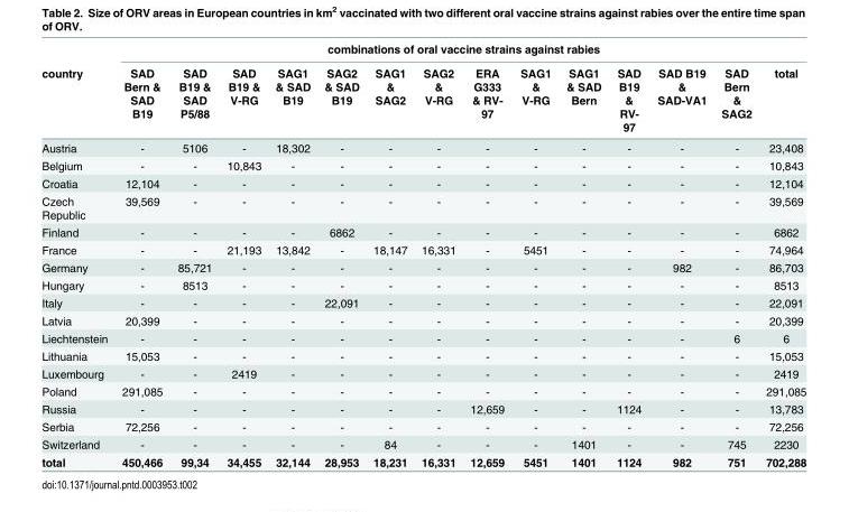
<table><thead><tr><td rowspan="2">country</td><td colspan="14">combinations of oral vaccine strains against rabies</td></tr><tr><td>SAD Bern &amp; SAD B19</td><td>SAD B19 &amp; SAD P5/88</td><td>SAD B19 &amp; V-RG</td><td>SAG1 &amp; SAD B19</td><td>SAG2 &amp; SAD B19</td><td>SAG1 &amp; SAG2</td><td>SAG2 &amp; V-RG</td><td>ERA G333 &amp; RV- 97</td><td>SAG1 &amp; V-RG</td><td>SAG1 &amp; SAD Bern</td><td>SAD B19 &amp; RV- 97</td><td>SAD B19 &amp; SAD-VA1</td><td>SAD Bern &amp; SAG2</td><td>total</td></tr></thead><tbody><tr><td>Austria</td><td>-</td><td>5106</td><td>-</td><td>18,302</td><td>-</td><td>-</td><td>-</td><td>-</td><td>-</td><td>-</td><td>-</td><td>-</td><td>-</td><td>23,408</td></tr><tr><td>Belgium</td><td>-</td><td>-</td><td>10,843</td><td>-</td><td>-</td><td>-</td><td>-</td><td>-</td><td>-</td><td>-</td><td>-</td><td>-</td><td>-</td><td>10,843</td></tr><tr><td>Croatia</td><td>12,104</td><td>-</td><td>-</td><td>-</td><td>-</td><td>-</td><td>-</td><td>-</td><td>-</td><td>-</td><td>-</td><td>-</td><td>-</td><td>12,104</td></tr><tr><td>Czech Republic</td><td>39,569</td><td>-</td><td>-</td><td>-</td><td>-</td><td>-</td><td>-</td><td>-</td><td>-</td><td>-</td><td>-</td><td>-</td><td>-</td><td>39,569</td></tr><tr><td>Finland</td><td>-</td><td>-</td><td>-</td><td>-</td><td>6862</td><td>-</td><td>-</td><td>-</td><td>-</td><td>-</td><td>-</td><td>-</td><td>-</td><td>6862</td></tr><tr><td>France</td><td>-</td><td>-</td><td>21,193</td><td>13,842</td><td>-</td><td>18,147</td><td>16,331</td><td>-</td><td>5451</td><td>-</td><td>-</td><td>-</td><td>-</td><td>74,964</td></tr><tr><td>Germany</td><td>-</td><td>85,721</td><td>-</td><td>-</td><td>-</td><td>-</td><td>-</td><td>-</td><td>-</td><td>-</td><td>-</td><td>982</td><td>-</td><td>86,703</td></tr><tr><td>Hungary</td><td>-</td><td>8513</td><td>-</td><td>-</td><td>-</td><td>-</td><td>-</td><td>-</td><td>-</td><td>-</td><td>-</td><td>-</td><td>-</td><td>8513</td></tr><tr><td>Italy</td><td>-</td><td>-</td><td>-</td><td>-</td><td>22,091</td><td>-</td><td>-</td><td>-</td><td>-</td><td>-</td><td>-</td><td>-</td><td>-</td><td>22,091</td></tr><tr><td>Latvia</td><td>20,399</td><td>-</td><td>-</td><td>-</td><td>-</td><td>-</td><td>-</td><td>-</td><td>-</td><td>-</td><td>-</td><td>-</td><td>-</td><td>20,399</td></tr><tr><td>Liechtenstein</td><td>-</td><td>-</td><td>-</td><td>-</td><td>-</td><td>-</td><td>-</td><td>-</td><td>-</td><td>-</td><td>-</td><td>-</td><td>6</td><td>6</td></tr><tr><td>Lithuania</td><td>15,053</td><td>-</td><td>-</td><td>-</td><td>-</td><td>-</td><td>-</td><td>-</td><td>-</td><td>-</td><td>-</td><td>-</td><td>-</td><td>15,053</td></tr><tr><td>Luxembourg</td><td>-</td><td>-</td><td>2419</td><td>-</td><td>-</td><td>-</td><td>-</td><td>-</td><td>-</td><td>-</td><td>-</td><td>-</td><td>-</td><td>2419</td></tr><tr><td>Poland</td><td>291,085</td><td>-</td><td>-</td><td>-</td><td>-</td><td>-</td><td>-</td><td>-</td><td>-</td><td>-</td><td>-</td><td>-</td><td>-</td><td>291,085</td></tr><tr><td>Russia</td><td>-</td><td>-</td><td>-</td><td>-</td><td>-</td><td>-</td><td>-</td><td>12,659</td><td>-</td><td>-</td><td>1124</td><td>-</td><td>-</td><td>13,783</td></tr><tr><td>Serbia</td><td>72,256</td><td>-</td><td>-</td><td>-</td><td>-</td><td>-</td><td>-</td><td>-</td><td>-</td><td>-</td><td>-</td><td>-</td><td>-</td><td>72,256</td></tr><tr><td>Switzerland</td><td>-</td><td>-</td><td>-</td><td>-</td><td>-</td><td>84</td><td>-</td><td>-</td><td>-</td><td>1401</td><td>-</td><td>-</td><td>745</td><td>2230</td></tr><tr><td>total</td><td>450,466</td><td>99,34</td><td>34,455</td><td>32,144</td><td>28,953</td><td>18,231</td><td>16,331</td><td>12,659</td><td>5451</td><td>1401</td><td>1124</td><td>982</td><td>751</td><td>702,288</td></tr></tbody></table>